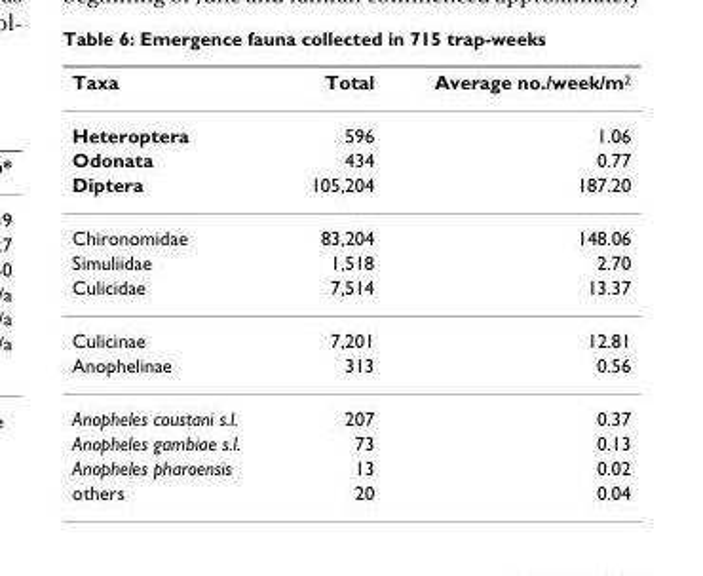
<table><thead><tr><td>Taxa</td><td>Total</td><td>Average no./week/m<sup>2</sup></td></tr></thead><tbody><tr><td>Heteroptera</td><td>596</td><td>1.06</td></tr><tr><td>Odonata</td><td>434</td><td>0.77</td></tr><tr><td>Diptera</td><td>105,204</td><td>187.20</td></tr><tr><td>Chironomidae</td><td>83,204</td><td>148.06</td></tr><tr><td>Simuliidae</td><td>1,518</td><td>2.70</td></tr><tr><td>Culicidae</td><td>7,514</td><td>13.37</td></tr><tr><td>Culicinae</td><td>7,201</td><td>12.81</td></tr><tr><td>Anophelinae</td><td>313</td><td>0.56</td></tr><tr><td>Anopheles coustani s.l.</td><td>207</td><td>0.37</td></tr><tr><td>Anopheles gambiae s.l.</td><td>73</td><td>0.13</td></tr><tr><td>Anopheles pharoensis</td><td>13</td><td>0.02</td></tr><tr><td>others</td><td>20</td><td>0.04</td></tr></tbody></table>